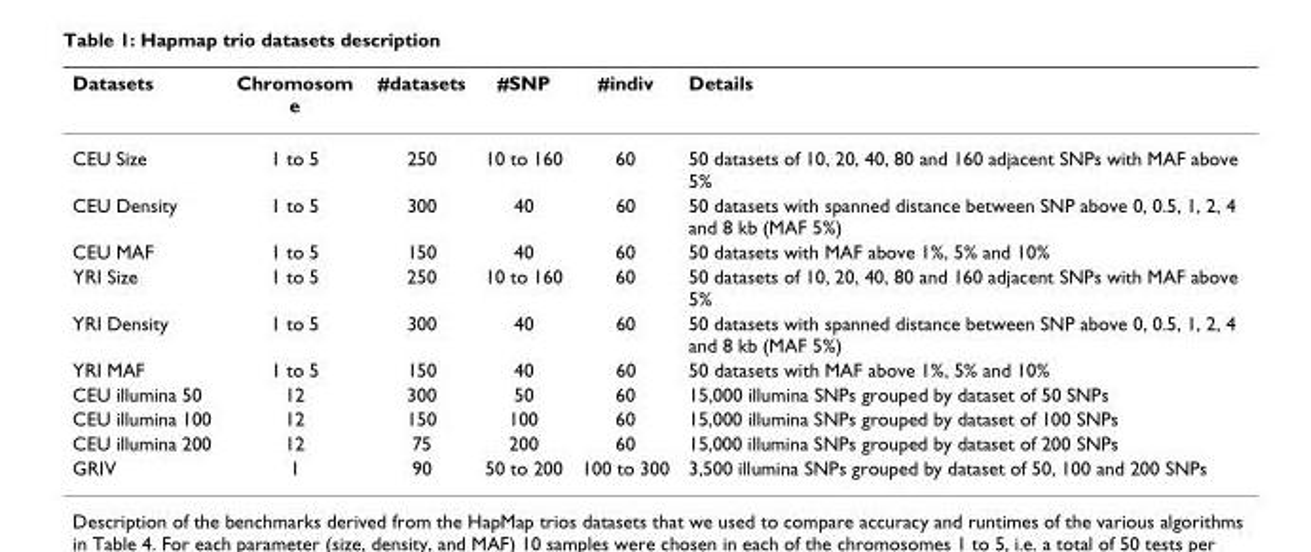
<table><thead><tr><td>Datasets</td><td>Chromosom e</td><td>#datasets</td><td>#SNP</td><td>#indiv</td><td>Details</td></tr></thead><tbody><tr><td>CEU Size</td><td>1 to 5</td><td>250</td><td>10 to 160</td><td>60</td><td>50 datasets of 10, 20, 40, 80 and 160 adjacent SNPs with MAF above 5%</td></tr><tr><td>CEU Density</td><td>1 to 5</td><td>300</td><td>40</td><td>60</td><td>50 datasets with spanned distance between SNP above 0, 0.5, 1, 2, 4 and 8 kb (MAF 5%)</td></tr><tr><td>CEU MAF</td><td>1 to 5</td><td>150</td><td>40</td><td>60</td><td>50 datasets with MAF above 1%, 5% and 10%</td></tr><tr><td>YRI Size</td><td>1 to 5</td><td>250</td><td>10 to 160</td><td>60</td><td>50 datasets of 10, 20, 40, 80 and 160 adjacent SNPs with MAF above 5%</td></tr><tr><td>YRI Density</td><td>1 to 5</td><td>300</td><td>40</td><td>60</td><td>50 datasets with spanned distance between SNP above 0, 0.5, 1, 2, 4 and 8 kb (MAF 5%)</td></tr><tr><td>YRI MAF</td><td>1 to 5</td><td>150</td><td>40</td><td>60</td><td>50 datasets with MAF above 1%, 5% and 10%</td></tr><tr><td>CEU illumina 50</td><td>12</td><td>300</td><td>50</td><td>60</td><td>15,000 illumina SNPs grouped by dataset of 50 SNPs</td></tr><tr><td>CEU illumina 100</td><td>12</td><td>150</td><td>100</td><td>60</td><td>15,000 illumina SNPs grouped by dataset of 100 SNPs</td></tr><tr><td>CEU illumina 200</td><td>12</td><td>75</td><td>200</td><td>60</td><td>15,000 illumina SNPs grouped by dataset of 200 SNPs</td></tr><tr><td>GRIV</td><td>1</td><td>90</td><td>50 to 200</td><td>100 to 300</td><td>3,500 illumina SNPs grouped by dataset of 50, 100 and 200 SNPs</td></tr></tbody></table>